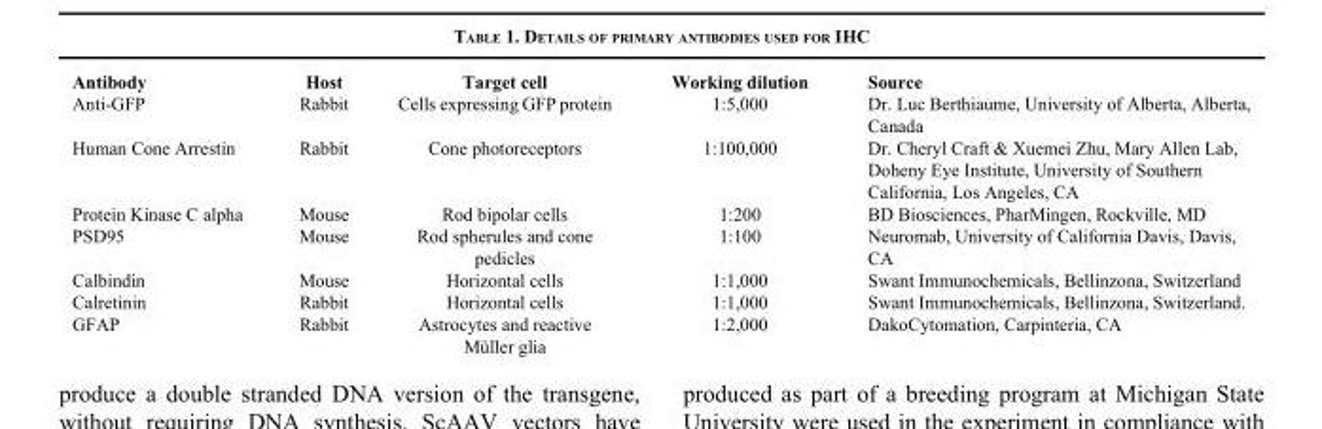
<table><thead><tr><td>Antibody</td><td>Host</td><td>Target cell</td><td>Working dilution</td><td>Source</td></tr></thead><tbody><tr><td>Anti-GFP</td><td>Rabbit</td><td>Cells expressing GFP protein</td><td>1:5,000</td><td>Dr. Luc Berthiaume, University of Alberta, Alberta, Canada</td></tr><tr><td>Human Cone Arrestin</td><td>Rabbit</td><td>Cone photoreceptors</td><td>1:100,000</td><td>Dr. Cheryl Craft &amp; Xuemei Zhu, Mary Allen Lab, Doheny Eye Institute, University of Southern California, Los Angeles, CA</td></tr><tr><td>Protein Kinase C alpha</td><td>Mouse</td><td>Rod bipolar cells</td><td>1:200</td><td>BD Biosciences, PharMingen, Rockville, MD</td></tr><tr><td>PSD95</td><td>Mouse</td><td>Rod spherules and cone pedicles</td><td>1:100</td><td>Neuromab, University of California Davis, Davis, CA</td></tr><tr><td>Calbindin</td><td>Mouse</td><td>Horizontal cells</td><td>1:1,000</td><td>Swant Immunochemicals, Bellinzona, Switzerland</td></tr><tr><td>Calretinin</td><td>Rabbit</td><td>Horizontal cells</td><td>1:1,000</td><td>Swant Immunochemicals, Bellinzona, Switzerland.</td></tr><tr><td>GFAP</td><td>Rabbit</td><td>Astrocytes and reactive Müller glia</td><td>1:2,000</td><td>DakoCytomation, Carpinteria, CA</td></tr></tbody></table>